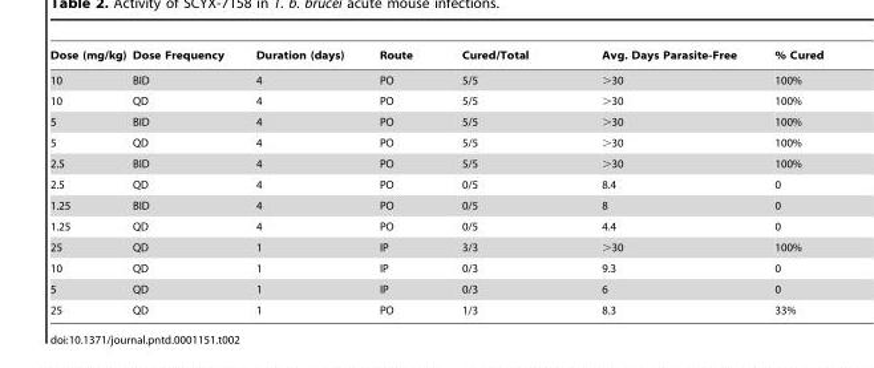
<table><thead><tr><td>Dose (mg/kg)</td><td>Dose Frequency</td><td>Duration (days)</td><td>Route</td><td>Cured/Total</td><td>Avg. Days Parasite-Free</td><td>% Cured</td></tr></thead><tbody><tr><td>10</td><td>BID</td><td>4</td><td>PO</td><td>5/5</td><td>&gt;30</td><td>100%</td></tr><tr><td>10</td><td>QD</td><td>4</td><td>PO</td><td>5/5</td><td>&gt;30</td><td>100%</td></tr><tr><td>5</td><td>BID</td><td>4</td><td>PO</td><td>5/5</td><td>&gt;30</td><td>100%</td></tr><tr><td>5</td><td>QD</td><td>4</td><td>PO</td><td>5/5</td><td>&gt;30</td><td>100%</td></tr><tr><td>2.5</td><td>BID</td><td>4</td><td>PO</td><td>5/5</td><td>&gt;30</td><td>100%</td></tr><tr><td>2.5</td><td>QD</td><td>4</td><td>PO</td><td>0/5</td><td>8.4</td><td>0</td></tr><tr><td>1.25</td><td>BID</td><td>4</td><td>PO</td><td>0/5</td><td>8</td><td>0</td></tr><tr><td>1.25</td><td>QD</td><td>4</td><td>PO</td><td>0/5</td><td>4.4</td><td>0</td></tr><tr><td>25</td><td>QD</td><td>1</td><td>IP</td><td>3/3</td><td>&gt;30</td><td>100%</td></tr><tr><td>10</td><td>QD</td><td>1</td><td>IP</td><td>0/3</td><td>9.3</td><td>0</td></tr><tr><td>5</td><td>QD</td><td>1</td><td>IP</td><td>0/3</td><td>6</td><td>0</td></tr><tr><td>25</td><td>QD</td><td>1</td><td>PO</td><td>1/3</td><td>8.3</td><td>33%</td></tr></tbody></table>